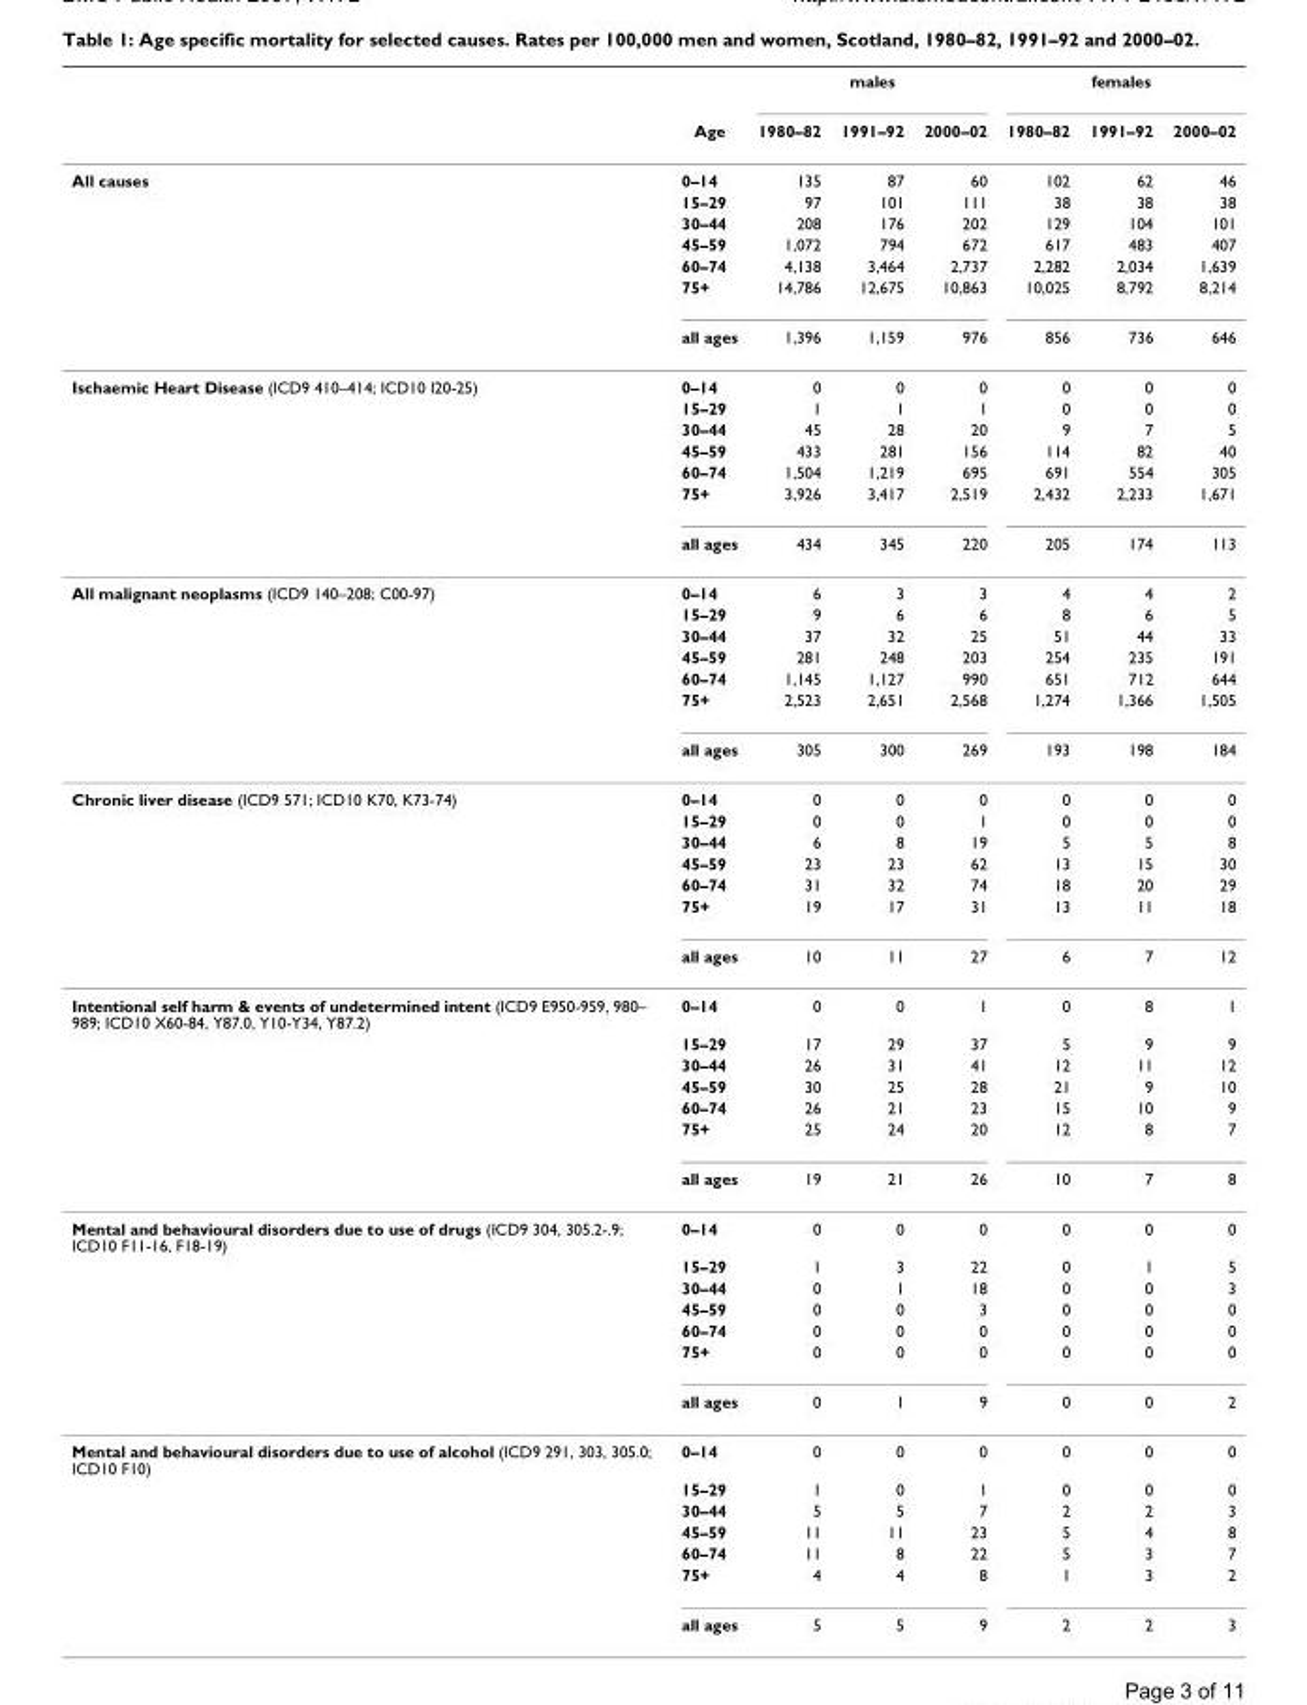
<table><thead><tr><td rowspan="2"></td><td rowspan="2">Age</td><td colspan="3">males</td><td colspan="3">females</td></tr><tr><td>1980–82</td><td>1991–92</td><td>2000–02</td><td>1980–82</td><td>1991–92</td><td>2000–02</td></tr></thead><tbody><tr><td rowspan="7">All causes</td><td>0–14</td><td>135</td><td>87</td><td>60</td><td>102</td><td>62</td><td>46</td></tr><tr><td>15–29</td><td>97</td><td>101</td><td>111</td><td>38</td><td>38</td><td>38</td></tr><tr><td>30–44</td><td>208</td><td>176</td><td>202</td><td>129</td><td>104</td><td>101</td></tr><tr><td>45–59</td><td>1,072</td><td>794</td><td>672</td><td>617</td><td>483</td><td>407</td></tr><tr><td>60–74</td><td>4,138</td><td>3,464</td><td>2,737</td><td>2,282</td><td>2,034</td><td>1,639</td></tr><tr><td>75+</td><td>14,786</td><td>12,675</td><td>10,863</td><td>10,025</td><td>8,792</td><td>8,214</td></tr><tr><td>all ages</td><td>1,396</td><td>1,159</td><td>976</td><td>856</td><td>736</td><td>646</td></tr><tr><td rowspan="7">Ischaemic Heart Disease (ICD9 410–414; ICD10 I20-25)</td><td>0–14</td><td>0</td><td>0</td><td>0</td><td>0</td><td>0</td><td>0</td></tr><tr><td>15–29</td><td>1</td><td>1</td><td>1</td><td>0</td><td>0</td><td>0</td></tr><tr><td>30–44</td><td>45</td><td>28</td><td>20</td><td>9</td><td>7</td><td>5</td></tr><tr><td>45–59</td><td>433</td><td>281</td><td>156</td><td>114</td><td>82</td><td>40</td></tr><tr><td>60–74</td><td>1,504</td><td>1,219</td><td>695</td><td>691</td><td>554</td><td>305</td></tr><tr><td>75+</td><td>3,926</td><td>3,417</td><td>2,519</td><td>2,432</td><td>2,233</td><td>1,671</td></tr><tr><td>all ages</td><td>434</td><td>345</td><td>220</td><td>205</td><td>174</td><td>113</td></tr><tr><td rowspan="7">All malignant neoplasms (ICD9 140–208; C00-97)</td><td>0–14</td><td>6</td><td>3</td><td>3</td><td>4</td><td>4</td><td>2</td></tr><tr><td>15–29</td><td>9</td><td>6</td><td>6</td><td>8</td><td>6</td><td>5</td></tr><tr><td>30–44</td><td>37</td><td>32</td><td>25</td><td>51</td><td>44</td><td>33</td></tr><tr><td>45–59</td><td>281</td><td>248</td><td>203</td><td>254</td><td>235</td><td>191</td></tr><tr><td>60–74</td><td>1,145</td><td>1,127</td><td>990</td><td>651</td><td>712</td><td>644</td></tr><tr><td>75+</td><td>2,523</td><td>2,651</td><td>2,568</td><td>1,274</td><td>1,366</td><td>1,505</td></tr><tr><td>all ages</td><td>305</td><td>300</td><td>269</td><td>193</td><td>198</td><td>184</td></tr><tr><td rowspan="7">Chronic liver disease (ICD9 571; ICD10 K70, K73-74)</td><td>0–14</td><td>0</td><td>0</td><td>0</td><td>0</td><td>0</td><td>0</td></tr><tr><td>15–29</td><td>0</td><td>0</td><td>1</td><td>0</td><td>0</td><td>0</td></tr><tr><td>30–44</td><td>6</td><td>8</td><td>19</td><td>5</td><td>5</td><td>8</td></tr><tr><td>45–59</td><td>23</td><td>23</td><td>62</td><td>13</td><td>15</td><td>30</td></tr><tr><td>60–74</td><td>31</td><td>32</td><td>74</td><td>18</td><td>20</td><td>29</td></tr><tr><td>75+</td><td>19</td><td>17</td><td>31</td><td>13</td><td>11</td><td>18</td></tr><tr><td>all ages</td><td>10</td><td>11</td><td>27</td><td>6</td><td>7</td><td>12</td></tr><tr><td rowspan="7">Intentional self harm &amp; events of undetermined intent (ICD9 E950-959, 980– 989; ICD10 X60-84, Y87.0, Y10-Y34, Y87.2)</td><td>0–14</td><td>0</td><td>0</td><td>1</td><td>0</td><td>8</td><td>1</td></tr><tr><td>15–29</td><td>17</td><td>29</td><td>37</td><td>5</td><td>9</td><td>9</td></tr><tr><td>30–44</td><td>26</td><td>31</td><td>41</td><td>12</td><td>11</td><td>12</td></tr><tr><td>45–59</td><td>30</td><td>25</td><td>28</td><td>21</td><td>9</td><td>10</td></tr><tr><td>60–74</td><td>26</td><td>21</td><td>23</td><td>15</td><td>10</td><td>9</td></tr><tr><td>75+</td><td>25</td><td>24</td><td>20</td><td>12</td><td>8</td><td>7</td></tr><tr><td>all ages</td><td>19</td><td>21</td><td>26</td><td>10</td><td>7</td><td>8</td></tr><tr><td rowspan="7">Mental and behavioural disorders due to use of drugs (ICD9 304, 305.2-.9; ICD10 F11-16, F18-19)</td><td>0–14</td><td>0</td><td>0</td><td>0</td><td>0</td><td>0</td><td>0</td></tr><tr><td>15–29</td><td>1</td><td>3</td><td>22</td><td>0</td><td>1</td><td>5</td></tr><tr><td>30–44</td><td>0</td><td>1</td><td>18</td><td>0</td><td>0</td><td>3</td></tr><tr><td>45–59</td><td>0</td><td>0</td><td>3</td><td>0</td><td>0</td><td>0</td></tr><tr><td>60–74</td><td>0</td><td>0</td><td>0</td><td>0</td><td>0</td><td>0</td></tr><tr><td>75+</td><td>0</td><td>0</td><td>0</td><td>0</td><td>0</td><td>0</td></tr><tr><td>all ages</td><td>0</td><td>1</td><td>9</td><td>0</td><td>0</td><td>2</td></tr><tr><td rowspan="7">Mental and behavioural disorders due to use of alcohol (ICD9 291, 303, 305.0; ICD10 F10)</td><td>0–14</td><td>0</td><td>0</td><td>0</td><td>0</td><td>0</td><td>0</td></tr><tr><td>15–29</td><td>1</td><td>0</td><td>1</td><td>0</td><td>0</td><td>0</td></tr><tr><td>30–44</td><td>5</td><td>5</td><td>7</td><td>2</td><td>2</td><td>3</td></tr><tr><td>45–59</td><td>11</td><td>11</td><td>23</td><td>5</td><td>4</td><td>8</td></tr><tr><td>60–74</td><td>11</td><td>8</td><td>22</td><td>5</td><td>3</td><td>7</td></tr><tr><td>75+</td><td>4</td><td>4</td><td>8</td><td>1</td><td>3</td><td>2</td></tr><tr><td>all ages</td><td>5</td><td>5</td><td>9</td><td>2</td><td>2</td><td>3</td></tr></tbody></table>